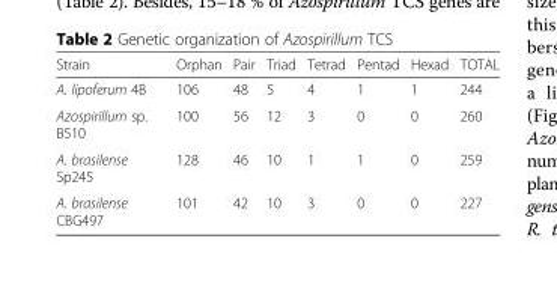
<table><thead><tr><td>Strain</td><td>Orphan</td><td>Pair</td><td>Triad</td><td>Tetrad</td><td>Pentad</td><td>Hexad</td><td>TOTAL</td></tr></thead><tbody><tr><td>A. lipoferum 4B</td><td>106</td><td>48</td><td>5</td><td>4</td><td>1</td><td>1</td><td>244</td></tr><tr><td>Azospirillum sp. B510</td><td>100</td><td>56</td><td>12</td><td>3</td><td>0</td><td>0</td><td>260</td></tr><tr><td>A. brasilense Sp245</td><td>128</td><td>46</td><td>10</td><td>1</td><td>1</td><td>0</td><td>259</td></tr><tr><td>A. brasilense CBG497</td><td>101</td><td>42</td><td>10</td><td>3</td><td>0</td><td>0</td><td>227</td></tr></tbody></table>